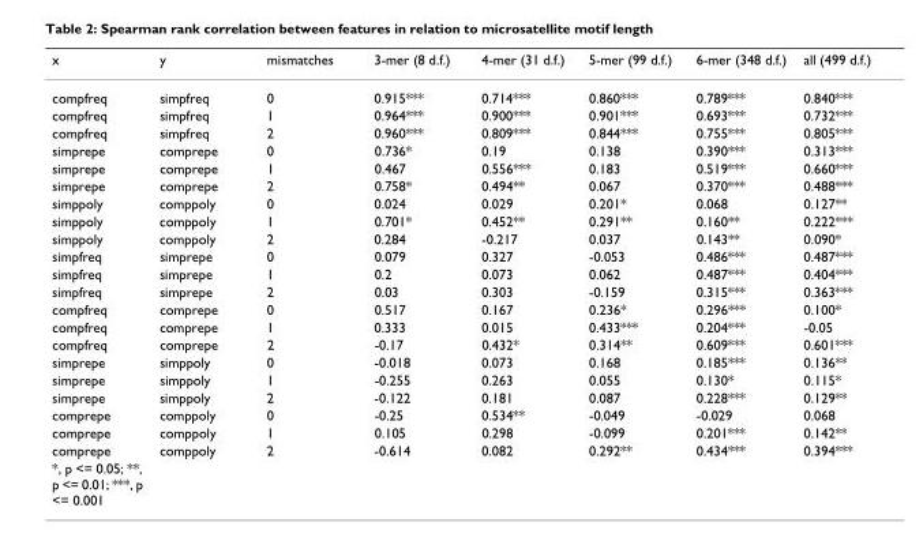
<table><thead><tr><td>x</td><td>y</td><td>mismatches</td><td>3-mer (8 d.f.)</td><td>4-mer (31 d.f.)</td><td>5-mer (99 d.f.)</td><td>6-mer (348 d.f.)</td><td>all (499 d.f.)</td></tr></thead><tbody><tr><td>compfreq</td><td>simpfreq</td><td>0</td><td>0.915***</td><td>0.714***</td><td>0.860***</td><td>0.789***</td><td>0.840***</td></tr><tr><td>compfreq</td><td>simpfreq</td><td>1</td><td>0.964***</td><td>0.900***</td><td>0.901***</td><td>0.693***</td><td>0.732***</td></tr><tr><td>compfreq</td><td>simpfreq</td><td>2</td><td>0.960***</td><td>0.809***</td><td>0.844***</td><td>0.755***</td><td>0.805***</td></tr><tr><td>simprepe</td><td>comprepe</td><td>0</td><td>0.736*</td><td>0.19</td><td>0.138</td><td>0.390***</td><td>0.313***</td></tr><tr><td>simprepe</td><td>comprepe</td><td>1</td><td>0.467</td><td>0.556***</td><td>0.183</td><td>0.519***</td><td>0.660***</td></tr><tr><td>simprepe</td><td>comprepe</td><td>2</td><td>0.758*</td><td>0.494**</td><td>0.067</td><td>0.370***</td><td>0.488***</td></tr><tr><td>simppoly</td><td>comppoly</td><td>0</td><td>0.024</td><td>0.029</td><td>0.201*</td><td>0.068</td><td>0.127**</td></tr><tr><td>simppoly</td><td>comppoly</td><td>1</td><td>0.701*</td><td>0.452**</td><td>0.291**</td><td>0.160**</td><td>0.222***</td></tr><tr><td>simppoly</td><td>comppoly</td><td>2</td><td>0.284</td><td>-0.217</td><td>0.037</td><td>0.143**</td><td>0.090*</td></tr><tr><td>simpfreq</td><td>simprepe</td><td>0</td><td>0.079</td><td>0.327</td><td>-0.053</td><td>0.486***</td><td>0.487***</td></tr><tr><td>simpfreq</td><td>simprepe</td><td>1</td><td>0.2</td><td>0.073</td><td>0.062</td><td>0.487***</td><td>0.404***</td></tr><tr><td>simpfreq</td><td>simprepe</td><td>2</td><td>0.03</td><td>0.303</td><td>-0.159</td><td>0.315***</td><td>0.363***</td></tr><tr><td>compfreq</td><td>comprepe</td><td>0</td><td>0.517</td><td>0.167</td><td>0.236*</td><td>0.296***</td><td>0.100*</td></tr><tr><td>compfreq</td><td>comprepe</td><td>1</td><td>0.333</td><td>0.015</td><td>0.433***</td><td>0.204***</td><td>-0.05</td></tr><tr><td>compfreq</td><td>comprepe</td><td>2</td><td>-0.17</td><td>0.432*</td><td>0.314**</td><td>0.609***</td><td>0.601***</td></tr><tr><td>simprepe</td><td>simppoly</td><td>0</td><td>-0.018</td><td>0.073</td><td>0.168</td><td>0.185***</td><td>0.136**</td></tr><tr><td>simprepe</td><td>simppoly</td><td>1</td><td>-0.255</td><td>0.263</td><td>0.055</td><td>0.130*</td><td>0.115*</td></tr><tr><td>simprepe</td><td>simppoly</td><td>2</td><td>-0.122</td><td>0.181</td><td>0.087</td><td>0.228***</td><td>0.129**</td></tr><tr><td>comprepe</td><td>comppoly</td><td>0</td><td>-0.25</td><td>0.534**</td><td>-0.049</td><td>-0.029</td><td>0.068</td></tr><tr><td>comprepe</td><td>comppoly</td><td>1</td><td>0.105</td><td>0.298</td><td>-0.099</td><td>0.201***</td><td>0.142**</td></tr><tr><td>comprepe</td><td>comppoly</td><td>2</td><td>-0.614</td><td>0.082</td><td>0.292**</td><td>0.434***</td><td>0.394***</td></tr><tr><td>*, p &lt;= 0.05; **, p &lt;= 0.01; ***, p &lt;= 0.001</td><td></td><td></td><td></td><td></td><td></td><td></td><td></td></tr></tbody></table>